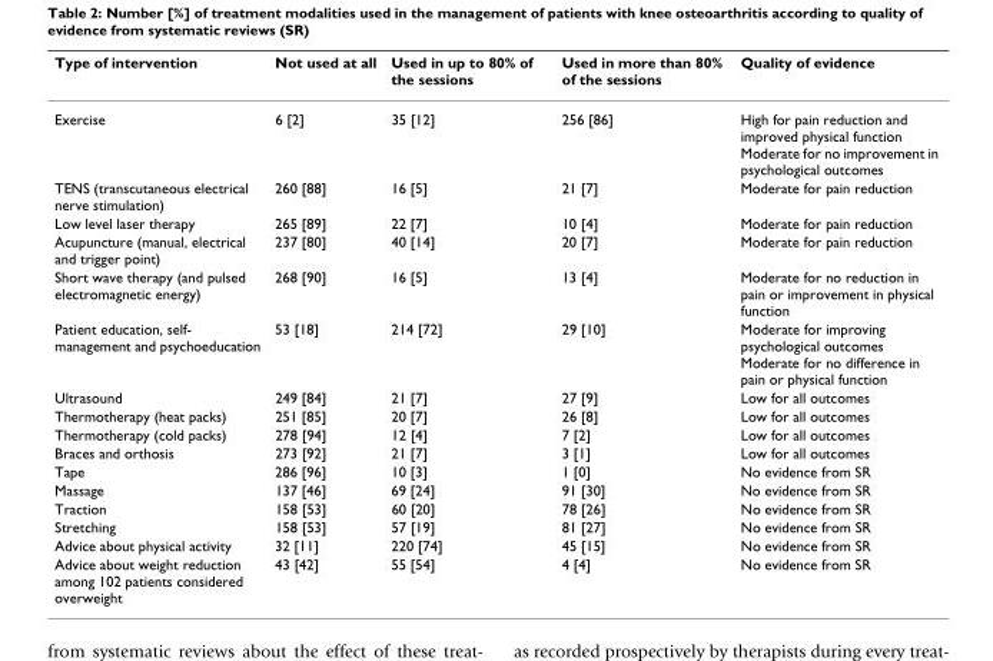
<table><thead><tr><td>Type of intervention</td><td>Not used at all</td><td>Used in up to 80% of the sessions</td><td>Used in more than 80% of the sessions</td><td>Quality of evidence</td></tr></thead><tbody><tr><td>Exercise</td><td>6 [2]</td><td>35 [12]</td><td>256 [86]</td><td>High for pain reduction and improved physical function Moderate for no improvement in psychological outcomes</td></tr><tr><td>TENS (transcutaneous electrical nerve stimulation)</td><td>260 [88]</td><td>16 [5]</td><td>21 [7]</td><td>Moderate for pain reduction</td></tr><tr><td>Low level laser therapy</td><td>265 [89]</td><td>22 [7]</td><td>10 [4]</td><td>Moderate for pain reduction</td></tr><tr><td>Acupuncture (manual, electrical and trigger point)</td><td>237 [80]</td><td>40 [14]</td><td>20 [7]</td><td>Moderate for pain reduction</td></tr><tr><td>Short wave therapy (and pulsed electromagnetic energy)</td><td>268 [90]</td><td>16 [5]</td><td>13 [4]</td><td>Moderate for no reduction in pain or improvement in physical function</td></tr><tr><td>Patient education, self- management and psychoeducation</td><td>53 [18]</td><td>214 [72]</td><td>29 [10]</td><td>Moderate for improving psychological outcomes Moderate for no difference in pain or physical function</td></tr><tr><td>Ultrasound</td><td>249 [84]</td><td>21 [7]</td><td>27 [9]</td><td>Low for all outcomes</td></tr><tr><td>Thermotherapy (heat packs)</td><td>251 [85]</td><td>20 [7]</td><td>26 [8]</td><td>Low for all outcomes</td></tr><tr><td>Thermotherapy (cold packs)</td><td>278 [94]</td><td>12 [4]</td><td>7 [2]</td><td>Low for all outcomes</td></tr><tr><td>Braces and orthosis</td><td>273 [92]</td><td>21 [7]</td><td>3 [1]</td><td>Low for all outcomes</td></tr><tr><td>Tape</td><td>286 [96]</td><td>10 [3]</td><td>1 [0]</td><td>No evidence from SR</td></tr><tr><td>Massage</td><td>137 [46]</td><td>69 [24]</td><td>91 [30]</td><td>No evidence from SR</td></tr><tr><td>Traction</td><td>158 [53]</td><td>60 [20]</td><td>78 [26]</td><td>No evidence from SR</td></tr><tr><td>Stretching</td><td>158 [53]</td><td>57 [19]</td><td>81 [27]</td><td>No evidence from SR</td></tr><tr><td>Advice about physical activity</td><td>32 [11]</td><td>220 [74]</td><td>45 [15]</td><td>No evidence from SR</td></tr><tr><td>Advice about weight reduction among 102 patients considered overweight</td><td>43 [42]</td><td>55 [54]</td><td>4 [4]</td><td>No evidence from SR</td></tr></tbody></table>